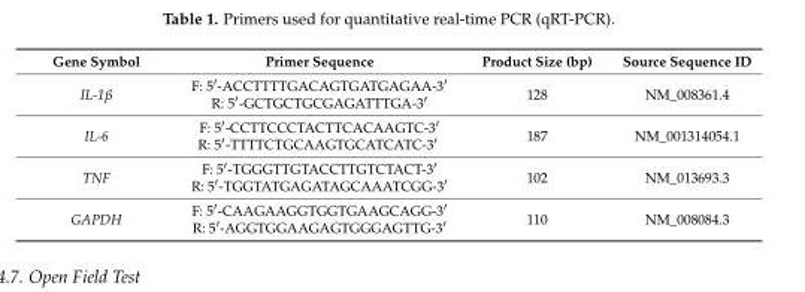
<table><thead><tr><td>Gene Symbol</td><td>Primer Sequence</td><td>Product Size (bp)</td><td>Source Sequence ID</td></tr></thead><tbody><tr><td>IL-1β</td><td>F: 5′-ACCTTTTGACAGTGATGAGAA-3′ R: 5′-GCTGCTGCGAGATTTGA-3′</td><td>128</td><td>NM_008361.4</td></tr><tr><td>IL-6</td><td>F: 5′-CCTTCCCTACTTCACAAGTC-3′ R: 5′-TTTTCTGCAAGTGCATCATC-3′</td><td>187</td><td>NM_001314054.1</td></tr><tr><td>TNF</td><td>F: 5′-TGGGTTGTACCTTGTCTACT-3′ R: 5′-TGGTATGAGATAGCAAATCGG-3′</td><td>102</td><td>NM_013693.3</td></tr><tr><td>GAPDH</td><td>F: 5′-CAAGAAGGTGGTGAAGCAGG-3′ R: 5′-AGGTGGAAGAGTGGGAGTTG-3′</td><td>110</td><td>NM_008084.3</td></tr></tbody></table>